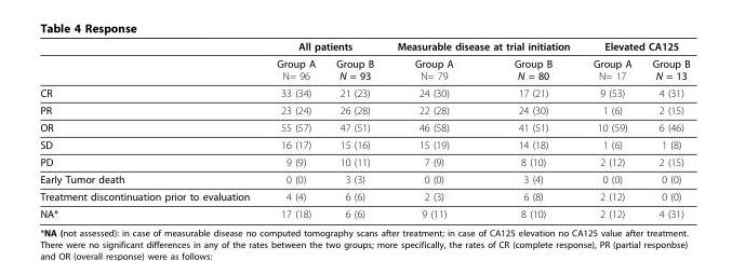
<table><thead><tr><td rowspan="2"></td><td colspan="2">All patients</td><td colspan="2">Measurable disease at trial initiation</td><td colspan="2">Elevated CA125</td></tr><tr><td>Group A N= 96</td><td>Group B N = 93</td><td>Group A N= 79</td><td>Group B N = 80</td><td>Group A N= 17</td><td>Group B N = 13</td></tr></thead><tbody><tr><td>CR</td><td>33 (34)</td><td>21 (23)</td><td>24 (30)</td><td>17 (21)</td><td>9 (53)</td><td>4 (31)</td></tr><tr><td>PR</td><td>23 (24)</td><td>26 (28)</td><td>22 (28)</td><td>24 (30)</td><td>1 (6)</td><td>2 (15)</td></tr><tr><td>OR</td><td>55 (57)</td><td>47 (51)</td><td>46 (58)</td><td>41 (51)</td><td>10 (59)</td><td>6 (46)</td></tr><tr><td>SD</td><td>16 (17)</td><td>15 (16)</td><td>15 (19)</td><td>14 (18)</td><td>1 (6)</td><td>1 (8)</td></tr><tr><td>PD</td><td>9 (9)</td><td>10 (11)</td><td>7 (9)</td><td>8 (10)</td><td>2 (12)</td><td>2 (15)</td></tr><tr><td>Early Tumor death</td><td>0 (0)</td><td>3 (3)</td><td>0 (0)</td><td>3 (4)</td><td>0 (0)</td><td>0 (0)</td></tr><tr><td>Treatment discontinuation prior to evaluation</td><td>4 (4)</td><td>6 (6)</td><td>2 (3)</td><td>6 (8)</td><td>2 (12)</td><td>0 (0)</td></tr><tr><td>NA*</td><td>17 (18)</td><td>6 (6)</td><td>9 (11)</td><td>8 (10)</td><td>2 (12)</td><td>4 (31)</td></tr></tbody></table>